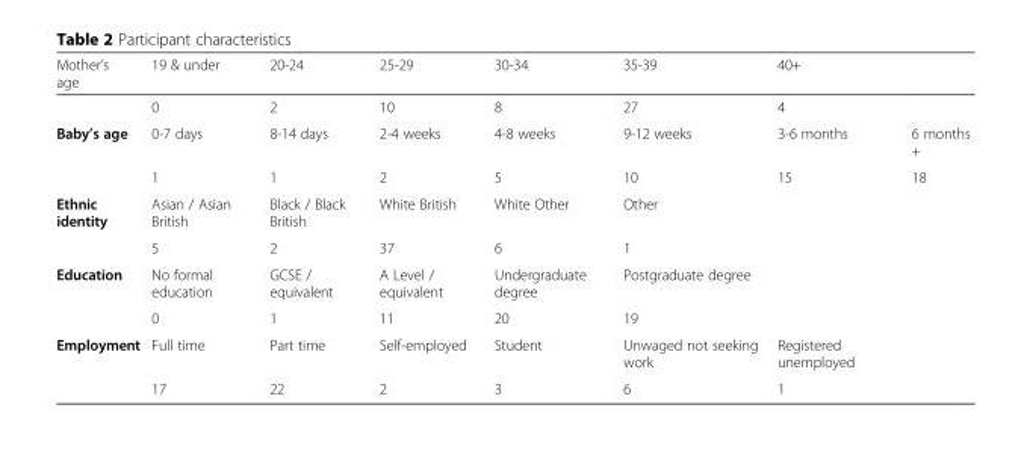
<table><thead><tr><td>Mother’s age</td><td>19 &amp; under</td><td>20-24</td><td>25-29</td><td>30-34</td><td>35-39</td><td>40+</td><td></td></tr></thead><tbody><tr><td></td><td>0</td><td>2</td><td>10</td><td>8</td><td>27</td><td>4</td><td></td></tr><tr><td rowspan="2">Baby’s age</td><td>0-7 days</td><td>8-14 days</td><td>2-4 weeks</td><td>4-8 weeks</td><td>9-12 weeks</td><td>3-6 months</td><td>6 months +</td></tr><tr><td>1</td><td>1</td><td>2</td><td>5</td><td>10</td><td>15</td><td>18</td></tr><tr><td rowspan="2">Ethnic identity</td><td>Asian / Asian British</td><td>Black / Black British</td><td>White British</td><td>White Other</td><td>Other</td><td></td><td></td></tr><tr><td>5</td><td>2</td><td>37</td><td>6</td><td>1</td><td></td><td></td></tr><tr><td rowspan="2">Education</td><td>No formal education</td><td>GCSE / equivalent</td><td>A Level / equivalent</td><td>Undergraduate degree</td><td>Postgraduate degree</td><td></td><td></td></tr><tr><td>0</td><td>1</td><td>11</td><td>20</td><td>19</td><td></td><td></td></tr><tr><td rowspan="2">Employment</td><td>Full time</td><td>Part time</td><td>Self-employed</td><td>Student</td><td>Unwaged not seeking work</td><td>Registered unemployed</td><td></td></tr><tr><td>17</td><td>22</td><td>2</td><td>3</td><td>6</td><td>1</td><td></td></tr></tbody></table>